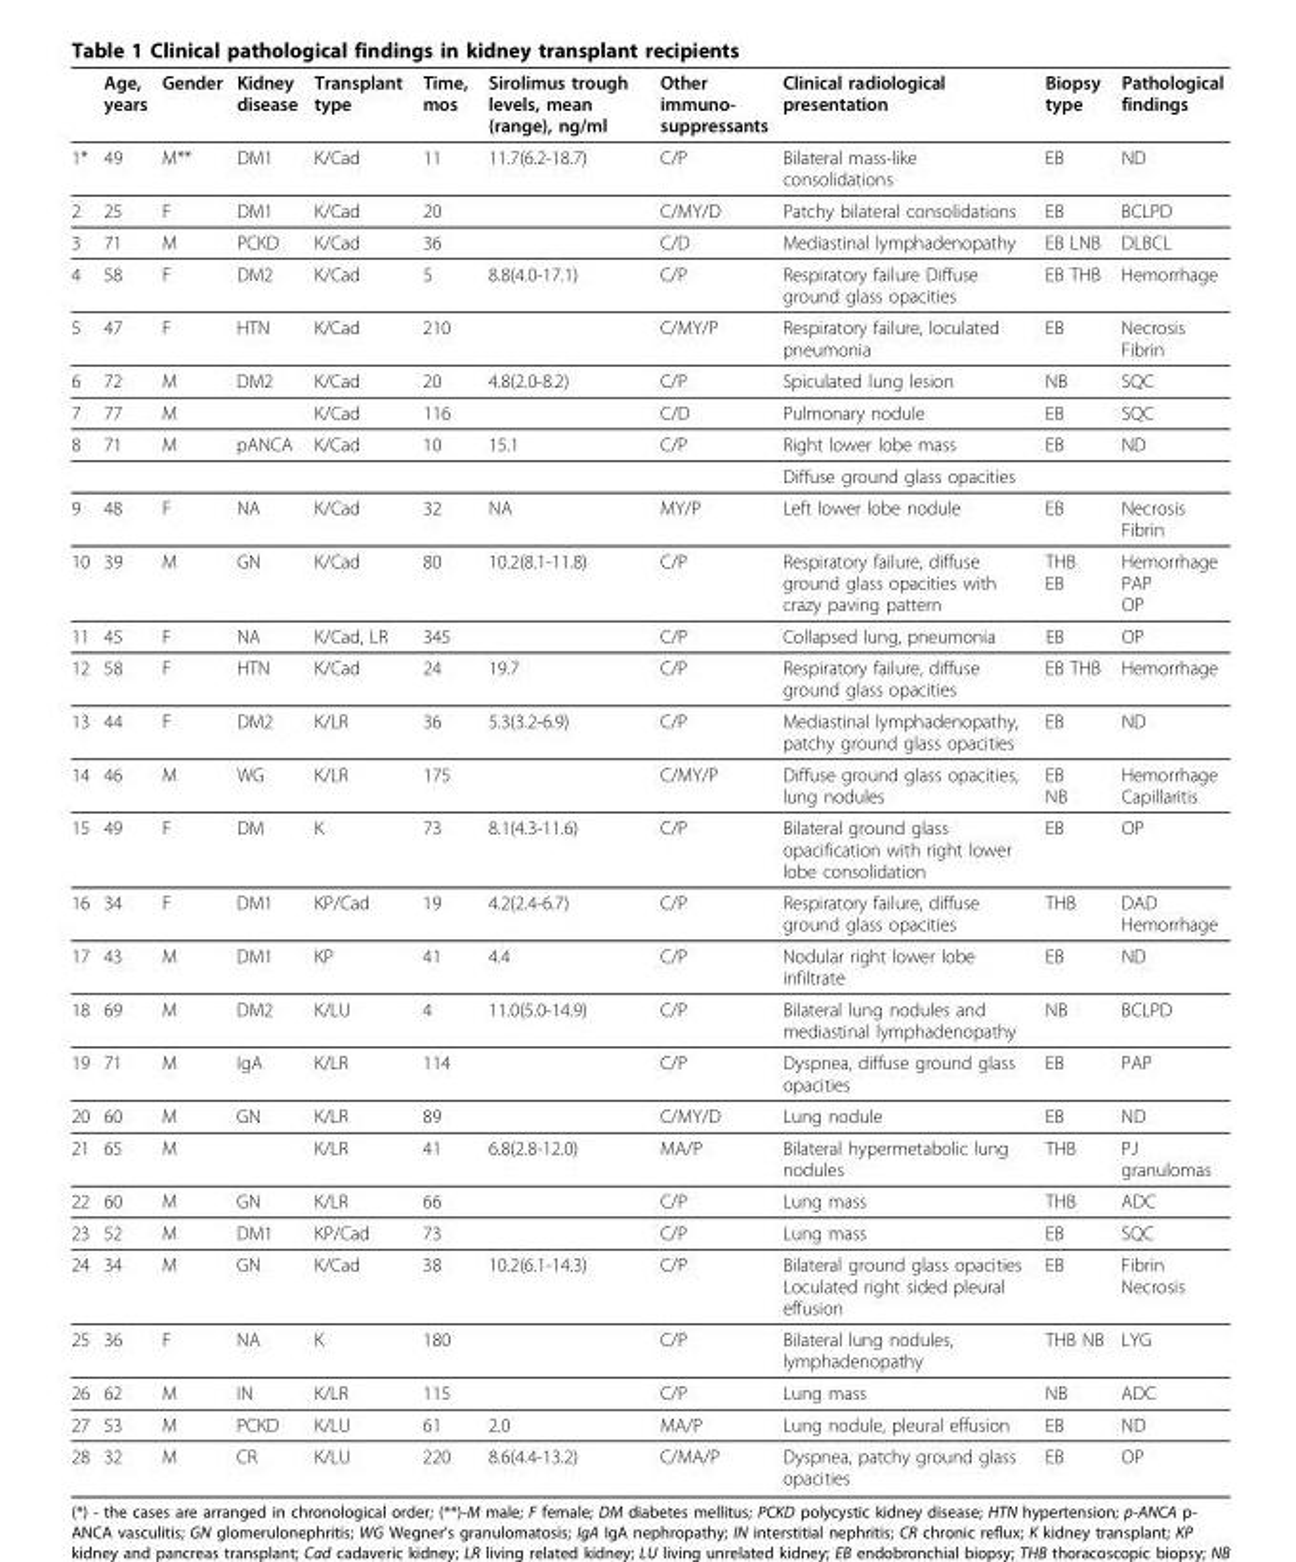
<table><thead><tr><td></td><td>Age, years</td><td>Gender</td><td>Kidney disease</td><td>Transplant type</td><td>Time, mos</td><td>Sirolimus trough levels, mean (range), ng/ml</td><td>Other immuno- suppressants</td><td>Clinical radiological presentation</td><td>Biopsy type</td><td>Pathological findings</td></tr></thead><tbody><tr><td>1*</td><td>49</td><td>M**</td><td>DM1</td><td>K/Cad</td><td>11</td><td>11.7(6.2-18.7)</td><td>C/P</td><td>Bilateral mass-like consolidations</td><td>EB</td><td>ND</td></tr><tr><td>2</td><td>25</td><td>F</td><td>DM1</td><td>K/Cad</td><td>20</td><td></td><td>C/MY/D</td><td>Patchy bilateral consolidations</td><td>EB</td><td>BCLPD</td></tr><tr><td>3</td><td>71</td><td>M</td><td>PCKD</td><td>K/Cad</td><td>36</td><td></td><td>C/D</td><td>Mediastinal lymphadenopathy</td><td>EB LNB</td><td>DLBCL</td></tr><tr><td>4</td><td>58</td><td>F</td><td>DM2</td><td>K/Cad</td><td>5</td><td>8.8(4.0-17.1)</td><td>C/P</td><td>Respiratory failure Diffuse ground glass opacities</td><td>EB THB</td><td>Hemorrhage</td></tr><tr><td>5</td><td>47</td><td>F</td><td>HTN</td><td>K/Cad</td><td>210</td><td></td><td>C/MY/P</td><td>Respiratory failure, loculated pneumonia</td><td>EB</td><td>Necrosis Fibrin</td></tr><tr><td>6</td><td>72</td><td>M</td><td>DM2</td><td>K/Cad</td><td>20</td><td>4.8(2.0-8.2)</td><td>C/P</td><td>Spiculated lung lesion</td><td>NB</td><td>SQC</td></tr><tr><td>7</td><td>77</td><td>M</td><td></td><td>K/Cad</td><td>116</td><td></td><td>C/D</td><td>Pulmonary nodule</td><td>EB</td><td>SQC</td></tr><tr><td rowspan="2">8</td><td>71</td><td>M</td><td>pANCA</td><td>K/Cad</td><td>10</td><td>15.1</td><td>C/P</td><td>Right lower lobe mass</td><td>EB</td><td>ND</td></tr><tr><td></td><td></td><td></td><td></td><td></td><td></td><td></td><td>Diffuse ground glass opacities</td><td></td><td></td></tr><tr><td>9</td><td>48</td><td>F</td><td>NA</td><td>K/Cad</td><td>32</td><td>NA</td><td>MY/P</td><td>Left lower lobe nodule</td><td>EB</td><td>Necrosis Fibrin</td></tr><tr><td>10</td><td>39</td><td>M</td><td>GN</td><td>K/Cad</td><td>80</td><td>10.2(8.1-11.8)</td><td>C/P</td><td>Respiratory failure, diffuse ground glass opacities with crazy paving pattern</td><td>THB EB</td><td>Hemorrhage PAP OP</td></tr><tr><td>11</td><td>45</td><td>F</td><td>NA</td><td>K/Cad, LR</td><td>345</td><td></td><td>C/P</td><td>Collapsed lung, pneumonia</td><td>EB</td><td>OP</td></tr><tr><td>12</td><td>58</td><td>F</td><td>HTN</td><td>K/Cad</td><td>24</td><td>19.7</td><td>C/P</td><td>Respiratory failure, diffuse ground glass opacities</td><td>EB THB</td><td>Hemorrhage</td></tr><tr><td>13</td><td>44</td><td>F</td><td>DM2</td><td>K/LR</td><td>36</td><td>5.3(3.2-6.9)</td><td>C/P</td><td>Mediastinal lymphadenopathy, patchy ground glass opacities</td><td>EB</td><td>ND</td></tr><tr><td>14</td><td>46</td><td>M</td><td>WG</td><td>K/LR</td><td>175</td><td></td><td>C/MY/P</td><td>Diffuse ground glass opacities, lung nodules</td><td>EB NB</td><td>Hemorrhage Capillaritis</td></tr><tr><td>15</td><td>49</td><td>F</td><td>DM</td><td>K</td><td>73</td><td>8.1(4.3-11.6)</td><td>C/P</td><td>Bilateral ground glass opacification with right lower lobe consolidation</td><td>EB</td><td>OP</td></tr><tr><td>16</td><td>34</td><td>F</td><td>DM1</td><td>KP/Cad</td><td>19</td><td>4.2(2.4-6.7)</td><td>C/P</td><td>Respiratory failure, diffuse ground glass opacities</td><td>THB</td><td>DAD Hemorrhage</td></tr><tr><td>17</td><td>43</td><td>M</td><td>DM1</td><td>KP</td><td>41</td><td>4.4</td><td>C/P</td><td>Nodular right lower lobe infiltrate</td><td>EB</td><td>ND</td></tr><tr><td>18</td><td>69</td><td>M</td><td>DM2</td><td>K/LU</td><td>4</td><td>11.0(5.0-14.9)</td><td>C/P</td><td>Bilateral lung nodules and mediastinal lymphadenopathy</td><td>NB</td><td>BCLPD</td></tr><tr><td>19</td><td>71</td><td>M</td><td>IgA</td><td>K/LR</td><td>114</td><td></td><td>C/P</td><td>Dyspnea, diffuse ground glass opacities</td><td>EB</td><td>PAP</td></tr><tr><td>20</td><td>60</td><td>M</td><td>GN</td><td>K/LR</td><td>89</td><td></td><td>C/MY/D</td><td>Lung nodule</td><td>EB</td><td>ND</td></tr><tr><td>21</td><td>65</td><td>M</td><td></td><td>K/LR</td><td>41</td><td>6.8(2.8-12.0)</td><td>MA/P</td><td>Bilateral hypermetabolic lung nodules</td><td>THB</td><td>PJ granulomas</td></tr><tr><td>22</td><td>60</td><td>M</td><td>GN</td><td>K/LR</td><td>66</td><td></td><td>C/P</td><td>Lung mass</td><td>THB</td><td>ADC</td></tr><tr><td>23</td><td>52</td><td>M</td><td>DM1</td><td>KP/Cad</td><td>73</td><td></td><td>C/P</td><td>Lung mass</td><td>EB</td><td>SQC</td></tr><tr><td>24</td><td>34</td><td>M</td><td>GN</td><td>K/Cad</td><td>38</td><td>10.2(6.1-14.3)</td><td>C/P</td><td>Bilateral ground glass opacities Loculated right sided pleural effusion</td><td>EB</td><td>Fibrin Necrosis</td></tr><tr><td>25</td><td>36</td><td>F</td><td>NA</td><td>K</td><td>180</td><td></td><td>C/P</td><td>Bilateral lung nodules, lymphadenopathy</td><td>THB NB</td><td>LYG</td></tr><tr><td>26</td><td>62</td><td>M</td><td>IN</td><td>K/LR</td><td>115</td><td></td><td>C/P</td><td>Lung mass</td><td>NB</td><td>ADC</td></tr><tr><td>27</td><td>53</td><td>M</td><td>PCKD</td><td>K/LU</td><td>61</td><td>2.0</td><td>MA/P</td><td>Lung nodule, pleural effusion</td><td>EB</td><td>ND</td></tr><tr><td>28</td><td>32</td><td>M</td><td>CR</td><td>K/LU</td><td>220</td><td>8.6(4.4-13.2)</td><td>C/MA/P</td><td>Dyspnea, patchy ground glass opacities</td><td>EB</td><td>OP</td></tr></tbody></table>